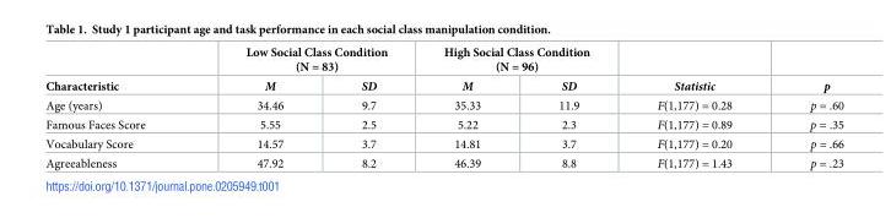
<table><thead><tr><td rowspan="2">Characteristic</td><td colspan="2">Low Social Class Condition (N = 83)</td><td colspan="2">High Social Class Condition (N = 96)</td><td rowspan="2">Statistic</td><td rowspan="2">p</td></tr><tr><td>M</td><td>SD</td><td>M</td><td>SD</td></tr></thead><tbody><tr><td>Age (years)</td><td>34.46</td><td>9.7</td><td>35.33</td><td>11.9</td><td>F(1,177) = 0.28</td><td>p = .60</td></tr><tr><td>Famous Faces Score</td><td>5.55</td><td>2.5</td><td>5.22</td><td>2.3</td><td>F(1,177) = 0.89</td><td>p = .35</td></tr><tr><td>Vocabulary Score</td><td>14.57</td><td>3.7</td><td>14.81</td><td>3.7</td><td>F(1,177) = 0.20</td><td>p = .66</td></tr><tr><td>Agreeableness</td><td>47.92</td><td>8.2</td><td>46.39</td><td>8.8</td><td>F(1,177) = 1.43</td><td>p = .23</td></tr></tbody></table>